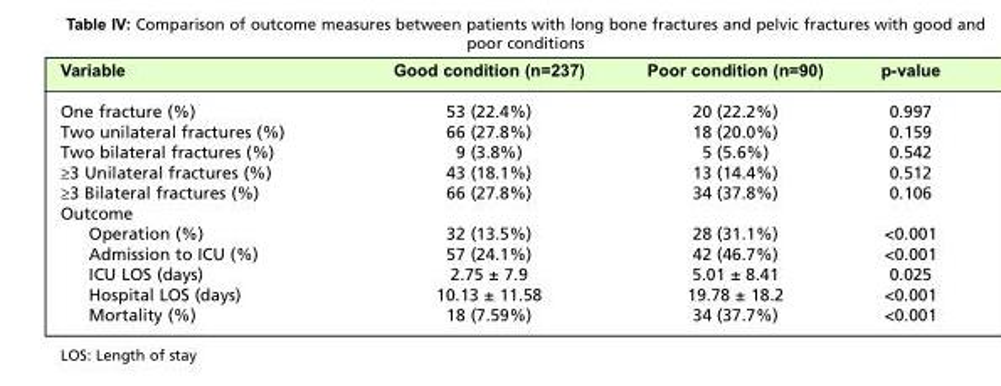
<table><thead><tr><td>Variable</td><td>Good condition (n=237)</td><td>Poor condition (n=90)</td><td>p-value</td></tr></thead><tbody><tr><td>One fracture (%)</td><td>53 (22.4%)</td><td>20 (22.2%)</td><td>0.997</td></tr><tr><td>Two unilateral fractures (%)</td><td>66 (27.8%)</td><td>18 (20.0%)</td><td>0.159</td></tr><tr><td>Two bilateral fractures (%)</td><td>9 (3.8%)</td><td>5 (5.6%)</td><td>0.542</td></tr><tr><td>≥3 Unilateral fractures (%)</td><td>43 (18.1%)</td><td>13 (14.4%)</td><td>0.512</td></tr><tr><td>≥3 Bilateral fractures (%)</td><td>66 (27.8%)</td><td>34 (37.8%)</td><td>0.106</td></tr><tr><td colspan="4">Outcome</td></tr><tr><td>Operation (%)</td><td>32 (13.5%)</td><td>28 (31.1%)</td><td>&lt;0.001</td></tr><tr><td>Admission to ICU (%)</td><td>57 (24.1%)</td><td>42 (46.7%)</td><td>&lt;0.001</td></tr><tr><td>ICU LOS (days)</td><td>2.75 ± 7.9</td><td>5.01 ± 8.41</td><td>0.025</td></tr><tr><td>Hospital LOS (days)</td><td>10.13 ± 11.58</td><td>19.78 ± 18.2</td><td>&lt;0.001</td></tr><tr><td>Mortality (%)</td><td>18 (7.59%)</td><td>34 (37.7%)</td><td>&lt;0.001</td></tr></tbody></table>